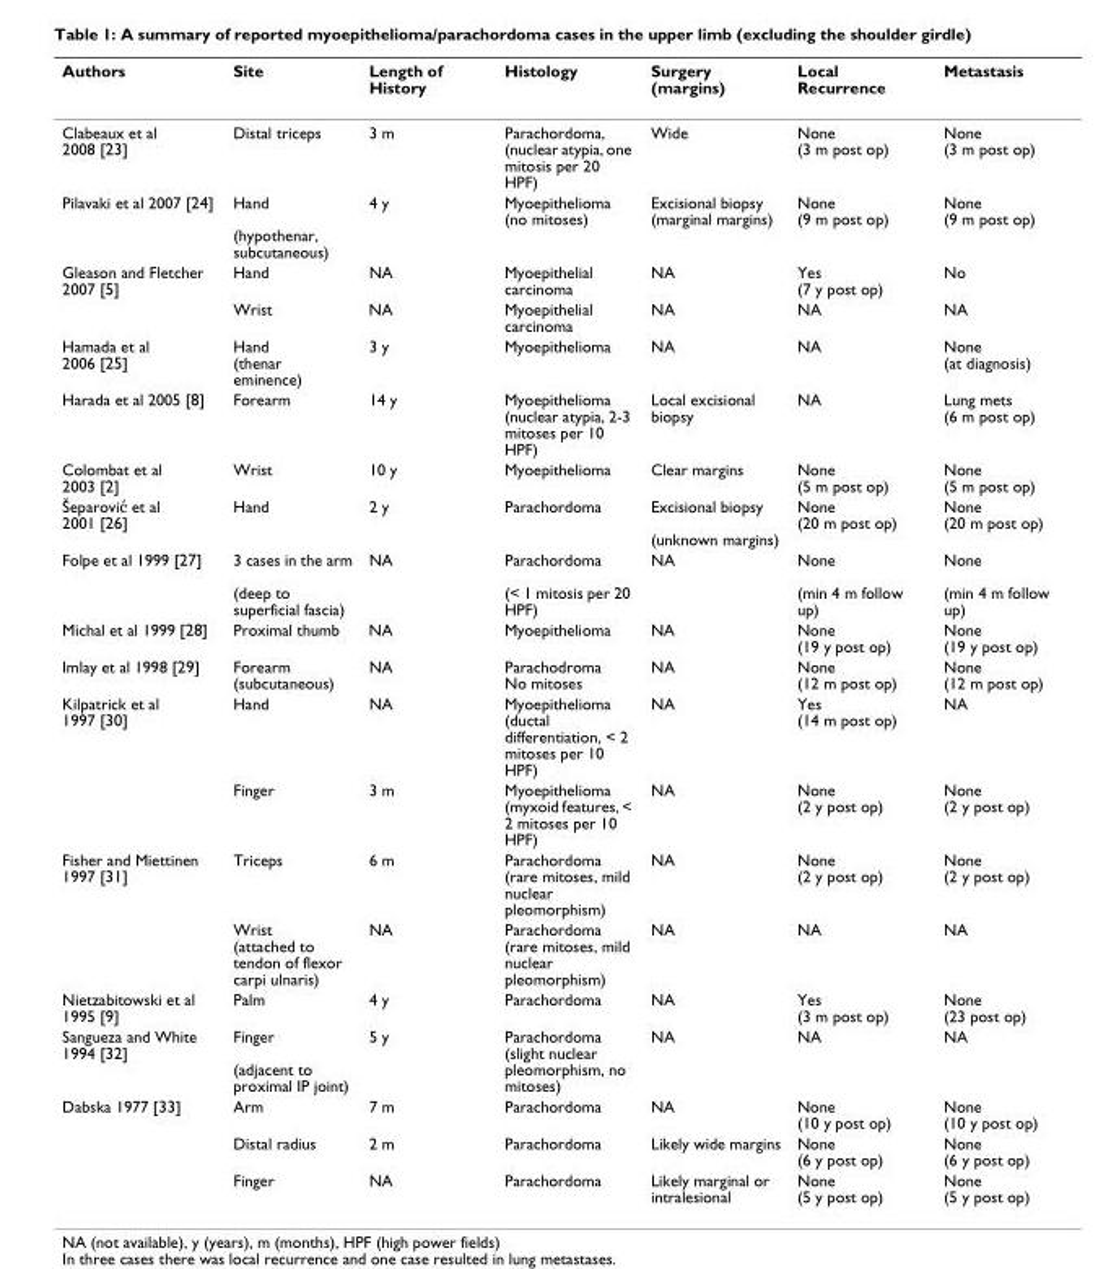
<table><thead><tr><td>Authors</td><td>Site</td><td>Length of History</td><td>Histology</td><td>Surgery (margins)</td><td>Local Recurrence</td><td>Metastasis</td></tr></thead><tbody><tr><td>Clabeaux et al 2008 [23]</td><td>Distal triceps</td><td>3 m</td><td>Parachordoma, (nuclear atypia, one mitosis per 20 HPF)</td><td>Wide</td><td>None (3 m post op)</td><td>None (3 m post op)</td></tr><tr><td>Pilavaki et al 2007 [24]</td><td>Hand (hypothenar, subcutaneous)</td><td>4 y</td><td>Myoepithelioma (no mitoses)</td><td>Excisional biopsy (marginal margins)</td><td>None (9 m post op)</td><td>None (9 m post op)</td></tr><tr><td rowspan="2">Gleason and Fletcher 2007 [5]</td><td>Hand</td><td>NA</td><td>Myoepithelial carcinoma</td><td>NA</td><td>Yes (7 y post op)</td><td>No</td></tr><tr><td>Wrist</td><td>NA</td><td>Myoepithelial carcinoma</td><td>NA</td><td>NA</td><td>NA</td></tr><tr><td>Hamada et al 2006 [25]</td><td>Hand (thenar eminence)</td><td>3 y</td><td>Myoepithelioma</td><td>NA</td><td>NA</td><td>None (at diagnosis)</td></tr><tr><td>Harada et al 2005 [8]</td><td>Forearm</td><td>14 y</td><td>Myoepithelioma (nuclear atypia, 2-3 mitoses per 10 HPF)</td><td>Local excisional biopsy</td><td>NA</td><td>Lung mets (6 m post op)</td></tr><tr><td>Colombat et al 2003 [2]</td><td>Wrist</td><td>10 y</td><td>Myoepithelioma</td><td>Clear margins</td><td>None (5 m post op)</td><td>None (5 m post op)</td></tr><tr><td>Šeparović et al 2001 [26]</td><td>Hand</td><td>2 y</td><td>Parachordoma</td><td>Excisional biopsy (unknown margins)</td><td>None (20 m post op)</td><td>None (20 m post op)</td></tr><tr><td>Folpe et al 1999 [27]</td><td>3 cases in the arm (deep to superficial fascia)</td><td>NA</td><td>Parachordoma (&lt; 1 mitosis per 20 HPF)</td><td>NA</td><td>None (min 4 m follow up)</td><td>None (min 4 m follow up)</td></tr><tr><td>Michal et al 1999 [28]</td><td>Proximal thumb</td><td>NA</td><td>Myoepithelioma</td><td>NA</td><td>None (19 y post op)</td><td>None (19 y post op)</td></tr><tr><td>Imlay et al 1998 [29]</td><td>Forearm (subcutaneous)</td><td>NA</td><td>Parachodroma No mitoses</td><td>NA</td><td>None (12 m post op)</td><td>None (12 m post op)</td></tr><tr><td rowspan="2">Kilpatrick et al 1997 [30]</td><td>Hand</td><td>NA</td><td>Myoepithelioma (ductal differentiation, &lt; 2 mitoses per 10 HPF)</td><td>NA</td><td>Yes (14 m post op)</td><td>NA</td></tr><tr><td>Finger</td><td>3 m</td><td>Myoepithelioma (myxoid features, &lt; 2 mitoses per 10 HPF)</td><td>NA</td><td>None (2 y post op)</td><td>None (2 y post op)</td></tr><tr><td rowspan="2">Fisher and Miettinen 1997 [31]</td><td>Triceps</td><td>6 m</td><td>Parachordoma (rare mitoses, mild nuclear pleomorphism)</td><td>NA</td><td>None (2 y post op)</td><td>None (2 y post op)</td></tr><tr><td>Wrist (attached to tendon of flexor carpi ulnaris)</td><td>NA</td><td>Parachordoma (rare mitoses, mild nuclear pleomorphism)</td><td>NA</td><td>NA</td><td>NA</td></tr><tr><td>Nietzabitowski et al 1995 [9]</td><td>Palm</td><td>4 y</td><td>Parachordoma</td><td>NA</td><td>Yes (3 m post op)</td><td>None (23 post op)</td></tr><tr><td>Sangueza and White 1994 [32]</td><td>Finger (adjacent to proximal IP joint)</td><td>5 y</td><td>Parachordoma (slight nuclear pleomorphism, no mitoses)</td><td>NA</td><td>NA</td><td>NA</td></tr><tr><td rowspan="3">Dabska 1977 [33]</td><td>Arm</td><td>7 m</td><td>Parachordoma</td><td>NA</td><td>None (10 y post op)</td><td>None (10 y post op)</td></tr><tr><td>Distal radius</td><td>2 m</td><td>Parachordoma</td><td>Likely wide margins</td><td>None (6 y post op)</td><td>None (6 y post op)</td></tr><tr><td>Finger</td><td>NA</td><td>Parachordoma</td><td>Likely marginal or intralesional</td><td>None (5 y post op)</td><td>None (5 y post op)</td></tr></tbody></table>